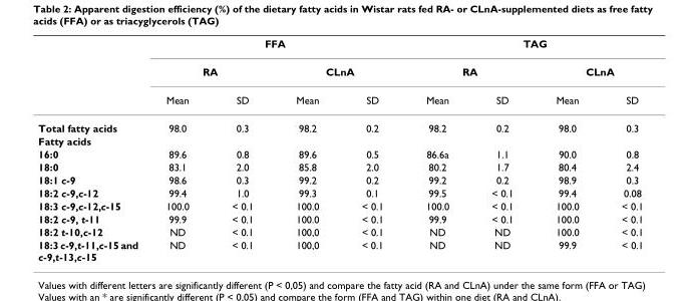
<table><thead><tr><td rowspan="3"></td><td colspan="4">FFA</td><td colspan="4">TAG</td></tr><tr><td colspan="2">RA</td><td colspan="2">CLnA</td><td colspan="2">RA</td><td colspan="2">CLnA</td></tr><tr><td>Mean</td><td>SD</td><td>Mean</td><td>SD</td><td>Mean</td><td>SD</td><td>Mean</td><td>SD</td></tr></thead><tbody><tr><td>Total fatty acids</td><td>98.0</td><td>0.3</td><td>98.2</td><td>0.2</td><td>98.2</td><td>0.2</td><td>98.0</td><td>0.3</td></tr><tr><td colspan="9">Fatty acids</td></tr><tr><td>16:0</td><td>89.6</td><td>0.8</td><td>89.6</td><td>0.5</td><td>86.6a</td><td>1.1</td><td>90.0</td><td>0.8</td></tr><tr><td>18:0</td><td>83.1</td><td>2.0</td><td>85.8</td><td>2.0</td><td>80.2</td><td>1.7</td><td>80.4</td><td>2.4</td></tr><tr><td>18:1 c-9</td><td>98.6</td><td>0.3</td><td>99.2</td><td>0.2</td><td>99.2</td><td>0.2</td><td>98.9</td><td>0.3</td></tr><tr><td>18:2 c-9,c-12</td><td>99.4</td><td>1.0</td><td>99.3</td><td>0.1</td><td>99.5</td><td>&lt; 0.1</td><td>99.4</td><td>0.08</td></tr><tr><td>18:3 c-9,c-12,c-15</td><td>100.0</td><td>&lt; 0.1</td><td>100.0</td><td>&lt; 0.1</td><td>100.0</td><td>&lt; 0.1</td><td>100.0</td><td>&lt; 0.1</td></tr><tr><td>18:2 c-9, t-11</td><td>99.9</td><td>&lt; 0.1</td><td>100.0</td><td>&lt; 0.1</td><td>99.9</td><td>&lt; 0.1</td><td>100.0</td><td>&lt; 0.1</td></tr><tr><td>18:2 t-10,c-12</td><td>ND</td><td>&lt; 0.1</td><td>100,0</td><td>&lt; 0.1</td><td>ND</td><td>ND</td><td>100.0</td><td>&lt; 0.1</td></tr><tr><td>18:3 c-9,t-11,c-15 and c-9,t-13,c-15</td><td>ND</td><td>&lt; 0.1</td><td>100,0</td><td>&lt; 0.1</td><td>ND</td><td>ND</td><td>99.9</td><td>&lt; 0.1</td></tr></tbody></table>